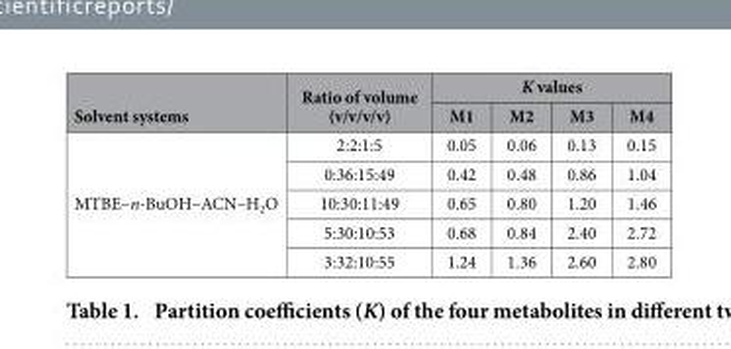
<table><thead><tr><td rowspan="2">Solvent systems</td><td rowspan="2">Ratio of volume (v/v/v/v)</td><td colspan="4">K values</td></tr><tr><td>M1</td><td>M2</td><td>M3</td><td>M4</td></tr></thead><tbody><tr><td rowspan="5">MTBE–n-BuOH–ACN–H<sub>2</sub>O</td><td>2:2:1:5</td><td>0.05</td><td>0.06</td><td>0.13</td><td>0.15</td></tr><tr><td>0:36:15:49</td><td>0.42</td><td>0.48</td><td>0.86</td><td>1.04</td></tr><tr><td>10:30:11:49</td><td>0.65</td><td>0.80</td><td>1.20</td><td>1.46</td></tr><tr><td>5:30:10:53</td><td>0.68</td><td>0.84</td><td>2.40</td><td>2.72</td></tr><tr><td>3:32:10:55</td><td>1.24</td><td>1.36</td><td>2.60</td><td>2.80</td></tr></tbody></table>